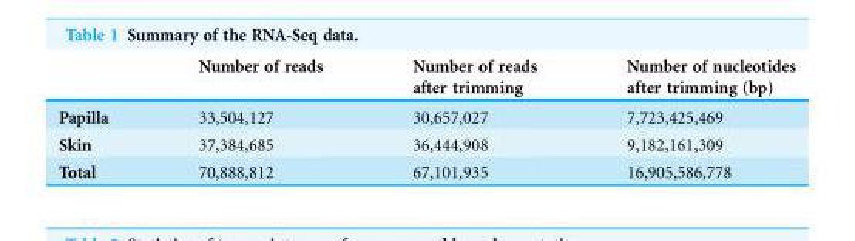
<table><thead><tr><td></td><td>Number of reads</td><td>Number of reads after trimming</td><td>Number of nucleotides after trimming (bp)</td></tr></thead><tbody><tr><td>Papilla</td><td>33,504,127</td><td>30,657,027</td><td>7,723,425,469</td></tr><tr><td>Skin</td><td>37,384,685</td><td>36,444,908</td><td>9,182,161,309</td></tr><tr><td>Total</td><td>70,888,812</td><td>67,101,935</td><td>16,905,586,778</td></tr></tbody></table>